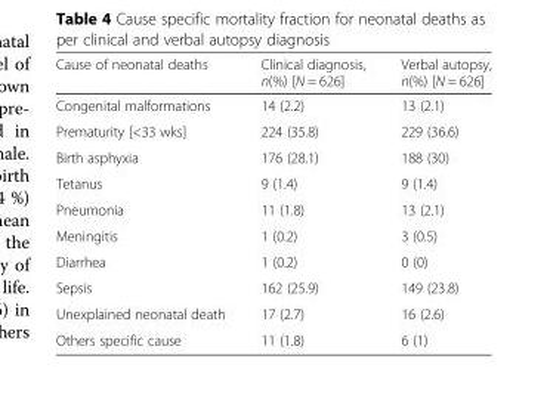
<table><thead><tr><td>Cause of neonatal deaths</td><td>Clinical diagnosis, n(%) [N = 626]</td><td>Verbal autopsy, n(%) [N = 626]</td></tr></thead><tbody><tr><td>Congenital malformations</td><td>14 (2.2)</td><td>13 (2.1)</td></tr><tr><td>Prematurity [&lt;33 wks]</td><td>224 (35.8)</td><td>229 (36.6)</td></tr><tr><td>Birth asphyxia</td><td>176 (28.1)</td><td>188 (30)</td></tr><tr><td>Tetanus</td><td>9 (1.4)</td><td>9 (1.4)</td></tr><tr><td>Pneumonia</td><td>11 (1.8)</td><td>13 (2.1)</td></tr><tr><td>Meningitis</td><td>1 (0.2)</td><td>3 (0.5)</td></tr><tr><td>Diarrhea</td><td>1 (0.2)</td><td>0 (0)</td></tr><tr><td>Sepsis</td><td>162 (25.9)</td><td>149 (23.8)</td></tr><tr><td>Unexplained neonatal death</td><td>17 (2.7)</td><td>16 (2.6)</td></tr><tr><td>Others specific cause</td><td>11 (1.8)</td><td>6 (1)</td></tr></tbody></table>